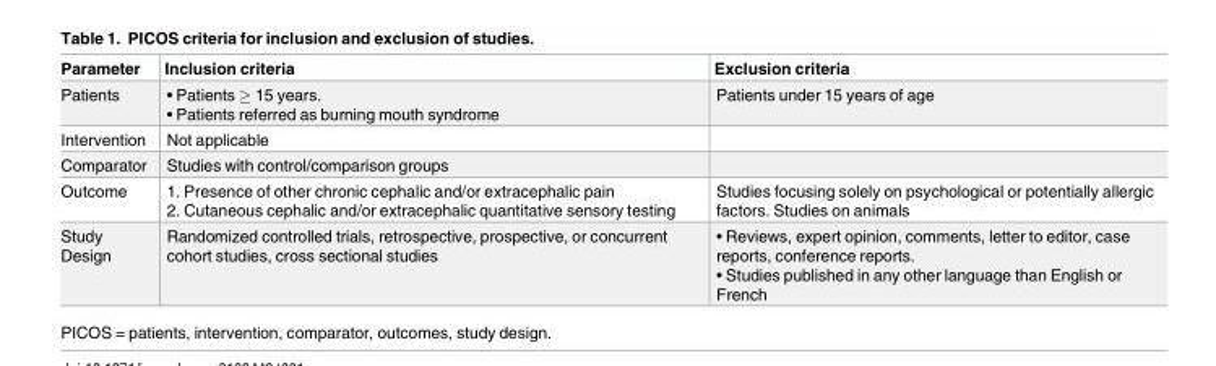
<table><thead><tr><td>Parameter</td><td>Inclusion criteria</td><td>Exclusion criteria</td></tr></thead><tbody><tr><td>Patients</td><td>• Patients ≥ 15 years. • Patients referred as burning mouth syndrome</td><td>Patients under 15 years of age</td></tr><tr><td>Intervention</td><td>Not applicable</td><td></td></tr><tr><td>Comparator</td><td>Studies with control/comparison groups</td><td></td></tr><tr><td>Outcome</td><td>1. Presence of other chronic cephalic and/or extracephalic pain 2. Cutaneous cephalic and/or extracephalic quantitative sensory testing</td><td>Studies focusing solely on psychological or potentially allergic factors. Studies on animals</td></tr><tr><td>Study Design</td><td>Randomized controlled trials, retrospective, prospective, or concurrent cohort studies, cross sectional studies</td><td>• Reviews, expert opinion, comments, letter to editor, case reports, conference reports. • Studies published in any other language than English or French</td></tr></tbody></table>